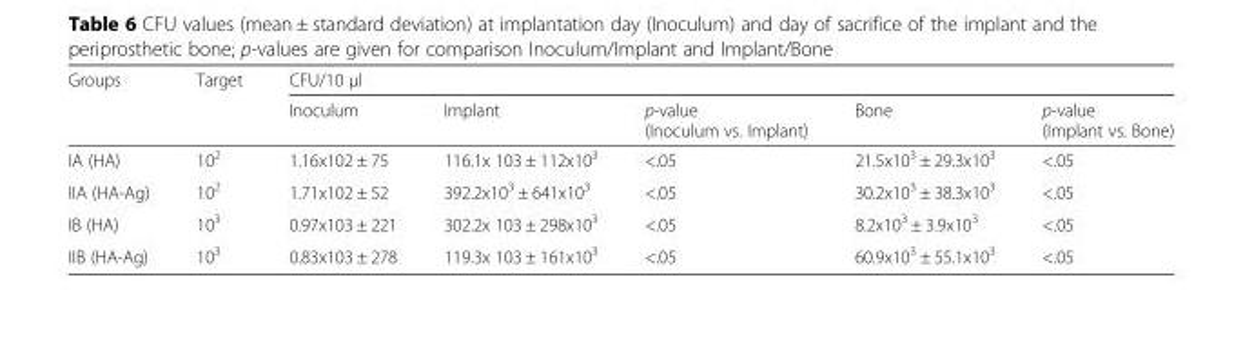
<table><thead><tr><td rowspan="2">Groups</td><td rowspan="2">Target</td><td colspan="5">CFU/10 μl</td></tr><tr><td>Inoculum</td><td>Implant</td><td>p-value (Inoculum vs. Implant)</td><td>Bone</td><td>p-value (Implant vs. Bone)</td></tr></thead><tbody><tr><td>IA (HA)</td><td>10<sup>2</sup></td><td>1.16x102 ± 75</td><td>116.1x 103 ± 112x10<sup>3</sup></td><td>&lt;.05</td><td>21.5x10<sup>3</sup> ± 29.3x10<sup>3</sup></td><td>&lt;.05</td></tr><tr><td>IIA (HA-Ag)</td><td>10<sup>2</sup></td><td>1.71x102 ± 52</td><td>392.2x10<sup>3</sup> ± 641x10<sup>3</sup></td><td>&lt;.05</td><td>30.2x10<sup>3</sup> ± 38.3x10<sup>3</sup></td><td>&lt;.05</td></tr><tr><td>IB (HA)</td><td>10<sup>3</sup></td><td>0.97x103 ± 221</td><td>302.2x 103 ± 298x10<sup>3</sup></td><td>&lt;.05</td><td>8.2x10<sup>3</sup> ± 3.9x10<sup>3</sup></td><td>&lt;.05</td></tr><tr><td>IIB (HA-Ag)</td><td>10<sup>3</sup></td><td>0.83x103 ± 278</td><td>119.3x 103 ± 161x10<sup>3</sup></td><td>&lt;.05</td><td>60.9x10<sup>3</sup> ± 55.1x10<sup>3</sup></td><td>&lt;.05</td></tr></tbody></table>